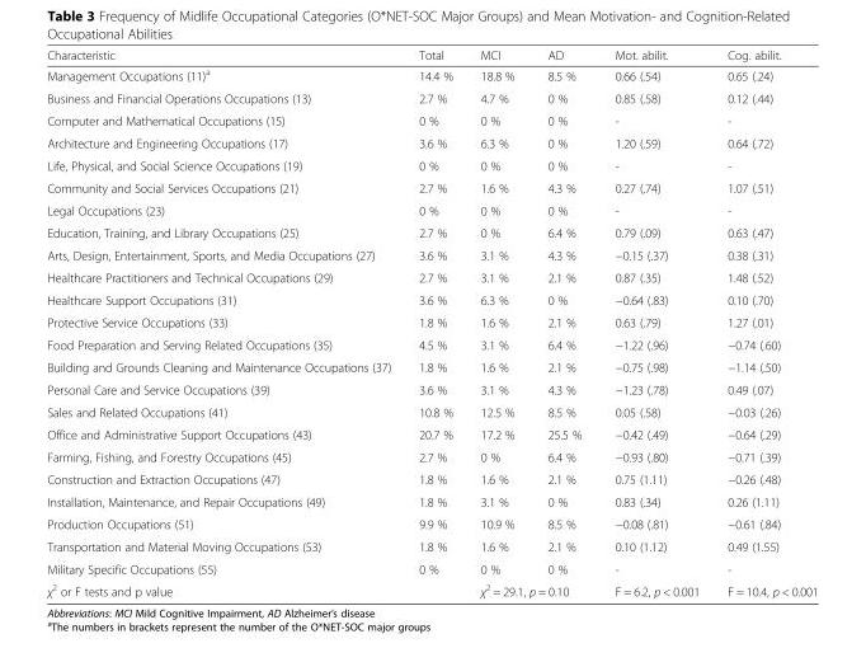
<table><thead><tr><td>Characteristic</td><td>Total</td><td>MCI</td><td>AD</td><td>Mot. abilit.</td><td>Cog. abilit.</td></tr></thead><tbody><tr><td>Management Occupations (11)<sup>a</sup></td><td>14.4 %</td><td>18.8 %</td><td>8.5 %</td><td>0.66 (.54)</td><td>0.65 (.24)</td></tr><tr><td>Business and Financial Operations Occupations (13)</td><td>2.7 %</td><td>4.7 %</td><td>0 %</td><td>0.85 (.58)</td><td>0.12 (.44)</td></tr><tr><td>Computer and Mathematical Occupations (15)</td><td>0 %</td><td>0 %</td><td>0 %</td><td>-</td><td>-</td></tr><tr><td>Architecture and Engineering Occupations (17)</td><td>3.6 %</td><td>6.3 %</td><td>0 %</td><td>1.20 (.59)</td><td>0.64 (.72)</td></tr><tr><td>Life, Physical, and Social Science Occupations (19)</td><td>0 %</td><td>0 %</td><td>0 %</td><td>-</td><td>-</td></tr><tr><td>Community and Social Services Occupations (21)</td><td>2.7 %</td><td>1.6 %</td><td>4.3 %</td><td>0.27 (.74)</td><td>1.07 (.51)</td></tr><tr><td>Legal Occupations (23)</td><td>0 %</td><td>0 %</td><td>0 %</td><td>-</td><td>-</td></tr><tr><td>Education, Training, and Library Occupations (25)</td><td>2.7 %</td><td>0 %</td><td>6.4 %</td><td>0.79 (.09)</td><td>0.63 (.47)</td></tr><tr><td>Arts, Design, Entertainment, Sports, and Media Occupations (27)</td><td>3.6 %</td><td>3.1 %</td><td>4.3 %</td><td>−0.15 (.37)</td><td>0.38 (.31)</td></tr><tr><td>Healthcare Practitioners and Technical Occupations (29)</td><td>2.7 %</td><td>3.1 %</td><td>2.1 %</td><td>0.87 (.35)</td><td>1.48 (.52)</td></tr><tr><td>Healthcare Support Occupations (31)</td><td>3.6 %</td><td>6.3 %</td><td>0 %</td><td>−0.64 (.83)</td><td>0.10 (.70)</td></tr><tr><td>Protective Service Occupations (33)</td><td>1.8 %</td><td>1.6 %</td><td>2.1 %</td><td>0.63 (.79)</td><td>1.27 (.01)</td></tr><tr><td>Food Preparation and Serving Related Occupations (35)</td><td>4.5 %</td><td>3.1 %</td><td>6.4 %</td><td>−1.22 (.96)</td><td>−0.74 (.60)</td></tr><tr><td>Building and Grounds Cleaning and Maintenance Occupations (37)</td><td>1.8 %</td><td>1.6 %</td><td>2.1 %</td><td>−0.75 (.98)</td><td>−1.14 (.50)</td></tr><tr><td>Personal Care and Service Occupations (39)</td><td>3.6 %</td><td>3.1 %</td><td>4.3 %</td><td>−1.23 (.78)</td><td>0.49 (.07)</td></tr><tr><td>Sales and Related Occupations (41)</td><td>10.8 %</td><td>12.5 %</td><td>8.5 %</td><td>0.05 (.58)</td><td>−0.03 (.26)</td></tr><tr><td>Office and Administrative Support Occupations (43)</td><td>20.7 %</td><td>17.2 %</td><td>25.5 %</td><td>−0.42 (.49)</td><td>−0.64 (.29)</td></tr><tr><td>Farming, Fishing, and Forestry Occupations (45)</td><td>2.7 %</td><td>0 %</td><td>6.4 %</td><td>−0.93 (.80)</td><td>−0.71 (.39)</td></tr><tr><td>Construction and Extraction Occupations (47)</td><td>1.8 %</td><td>1.6 %</td><td>2.1 %</td><td>0.75 (1.11)</td><td>−0.26 (.48)</td></tr><tr><td>Installation, Maintenance, and Repair Occupations (49)</td><td>1.8 %</td><td>3.1 %</td><td>0 %</td><td>0.83 (.34)</td><td>0.26 (1.11)</td></tr><tr><td>Production Occupations (51)</td><td>9.9 %</td><td>10.9 %</td><td>8.5 %</td><td>−0.08 (.81)</td><td>−0.61 (.84)</td></tr><tr><td>Transportation and Material Moving Occupations (53)</td><td>1.8 %</td><td>1.6 %</td><td>2.1 %</td><td>0.10 (1.12)</td><td>0.49 (1.55)</td></tr><tr><td>Military Specific Occupations (55)</td><td>0 %</td><td>0 %</td><td>0 %</td><td>-</td><td>-</td></tr><tr><td>χ<sup>2</sup> or F tests and p value</td><td></td><td colspan="2">χ<sup>2</sup> = 29.1, p = 0.10</td><td>F = 6.2, p &lt; 0.001</td><td>F = 10.4, p &lt; 0.001</td></tr></tbody></table>